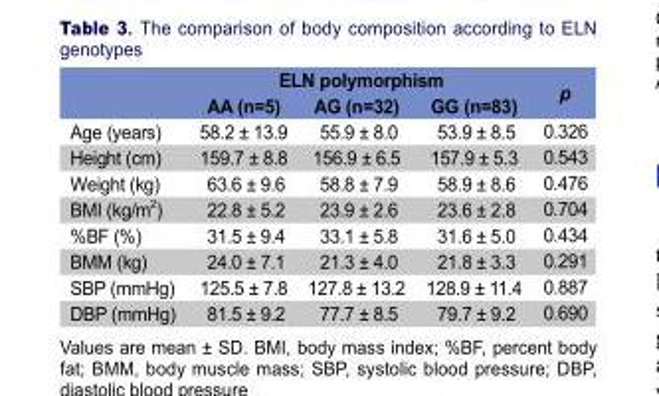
<table><thead><tr><td rowspan="2"></td><td colspan="3">ELN polymorphism</td><td rowspan="2">p</td></tr><tr><td>AA (n=5)</td><td>AG (n=32)</td><td>GG (n=83)</td></tr></thead><tbody><tr><td>Age (years)</td><td>58.2 ± 13.9</td><td>55.9 ± 8.0</td><td>53.9 ± 8.5</td><td>0.326</td></tr><tr><td>Height (cm)</td><td>159.7 ± 8.8</td><td>156.9 ± 6.5</td><td>157.9 ± 5.3</td><td>0.543</td></tr><tr><td>Weight (kg)</td><td>63.6 ± 9.6</td><td>58.8 ± 7.9</td><td>58.9 ± 8.6</td><td>0.476</td></tr><tr><td>BMI (kg/m <sup>2</sup>)</td><td>22.8 ± 5.2</td><td>23.9 ± 2.6</td><td>23.6 ± 2.8</td><td>0.704</td></tr><tr><td>%BF (%)</td><td>31.5 ± 9.4</td><td>33.1 ± 5.8</td><td>31.6 ± 5.0</td><td>0.434</td></tr><tr><td>BMM (kg)</td><td>24.0 ± 7.1</td><td>21.3 ± 4.0</td><td>21.8 ± 3.3</td><td>0.291</td></tr><tr><td>SBP (mmHg)</td><td>125.5 ± 7.8</td><td>127.8 ± 13.2</td><td>128.9 ± 11.4</td><td>0.887</td></tr><tr><td>DBP (mmHg)</td><td>81.5 ± 9.2</td><td>77.7 ± 8.5</td><td>79.7 ± 9.2</td><td>0.690</td></tr></tbody></table>